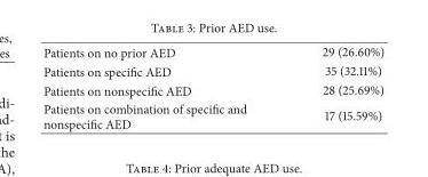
<table><tbody><tr><td>Patients on no prior AED</td><td>29 (26.60%)</td></tr><tr><td>Patients on specific AED</td><td>35 (32.11%)</td></tr><tr><td>Patients on nonspecific AED</td><td>28 (25.69%)</td></tr><tr><td>Patients on combination of specific and nonspecific AED</td><td>17 (15.59%)</td></tr></tbody></table>